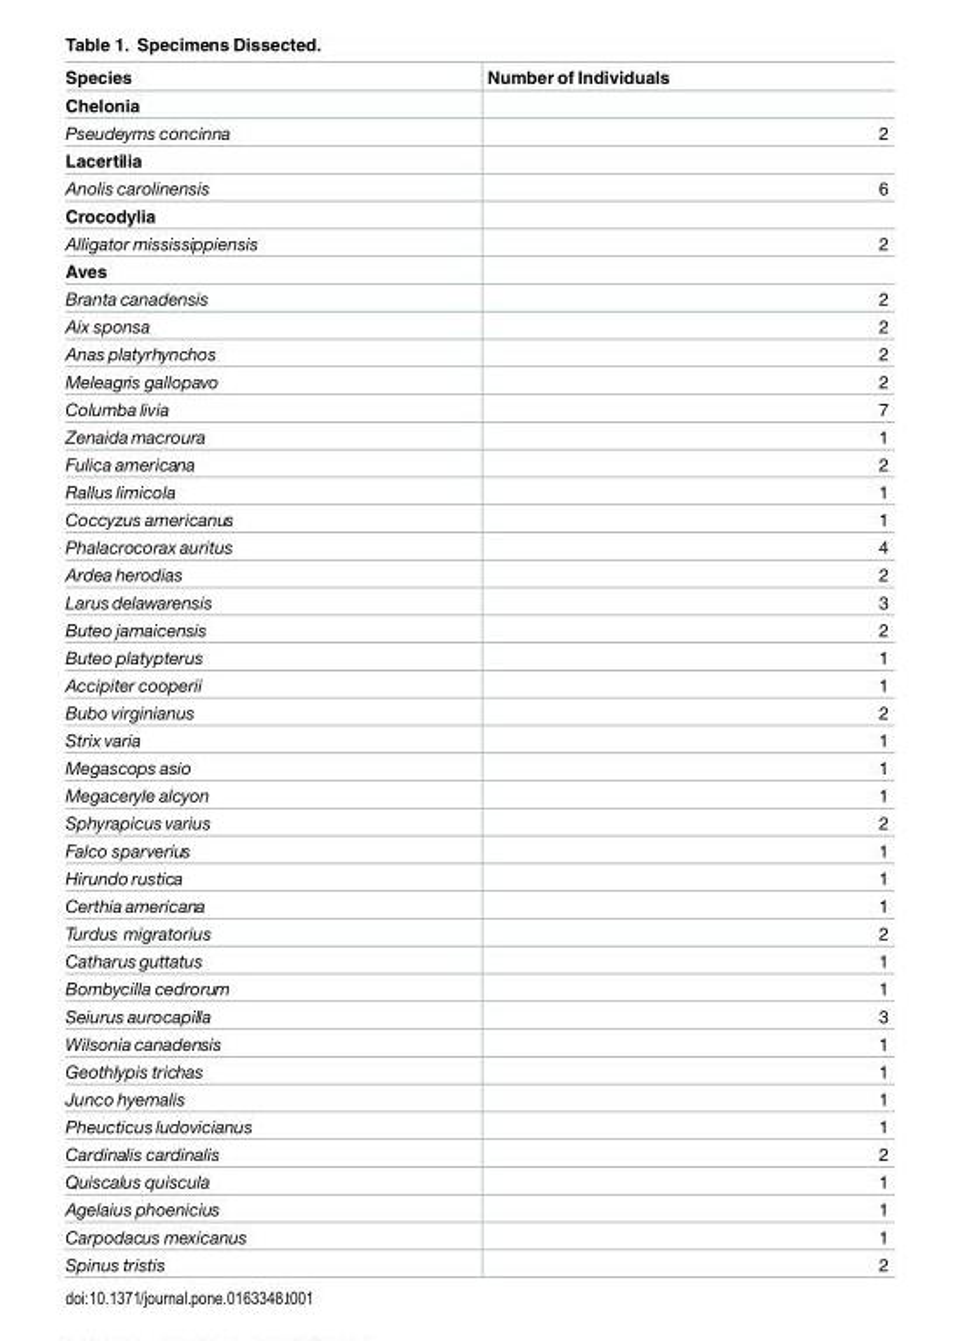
<table><thead><tr><td>Species</td><td>Number of Individuals</td></tr></thead><tbody><tr><td colspan="2">Chelonia</td></tr><tr><td>Pseudeyms concinna</td><td>2</td></tr><tr><td colspan="2">Lacertilia</td></tr><tr><td>Anolis carolinensis</td><td>6</td></tr><tr><td colspan="2">Crocodylia</td></tr><tr><td>Alligator mississippiensis</td><td>2</td></tr><tr><td colspan="2">Aves</td></tr><tr><td>Branta canadensis</td><td>2</td></tr><tr><td>Aix sponsa</td><td>2</td></tr><tr><td>Anas platyrhynchos</td><td>2</td></tr><tr><td>Meleagris gallopavo</td><td>2</td></tr><tr><td>Columba livia</td><td>7</td></tr><tr><td>Zenaida macroura</td><td>1</td></tr><tr><td>Fulica americana</td><td>2</td></tr><tr><td>Rallus limicola</td><td>1</td></tr><tr><td>Coccyzus americanus</td><td>1</td></tr><tr><td>Phalacrocorax auritus</td><td>4</td></tr><tr><td>Ardea herodias</td><td>2</td></tr><tr><td>Larus delawarensis</td><td>3</td></tr><tr><td>Buteo jamaicensis</td><td>2</td></tr><tr><td>Buteo platypterus</td><td>1</td></tr><tr><td>Accipiter cooperii</td><td>1</td></tr><tr><td>Bubo virginianus</td><td>2</td></tr><tr><td>Strix varia</td><td>1</td></tr><tr><td>Megascops asio</td><td>1</td></tr><tr><td>Megaceryle alcyon</td><td>1</td></tr><tr><td>Sphyrapicus varius</td><td>2</td></tr><tr><td>Falco sparverius</td><td>1</td></tr><tr><td>Hirundo rustica</td><td>1</td></tr><tr><td>Certhia americana</td><td>1</td></tr><tr><td>Turdus migratorius</td><td>2</td></tr><tr><td>Catharus guttatus</td><td>1</td></tr><tr><td>Bombycilla cedrorum</td><td>1</td></tr><tr><td>Seiurus aurocapilla</td><td>3</td></tr><tr><td>Wilsonia canadensis</td><td>1</td></tr><tr><td>Geothlypis trichas</td><td>1</td></tr><tr><td>Junco hyemalis</td><td>1</td></tr><tr><td>Pheucticus ludovicianus</td><td>1</td></tr><tr><td>Cardinalis cardinalis</td><td>2</td></tr><tr><td>Quiscalus quiscula</td><td>1</td></tr><tr><td>Agelaius phoenicius</td><td>1</td></tr><tr><td>Carpodacus mexicanus</td><td>1</td></tr><tr><td>Spinus tristis</td><td>2</td></tr></tbody></table>